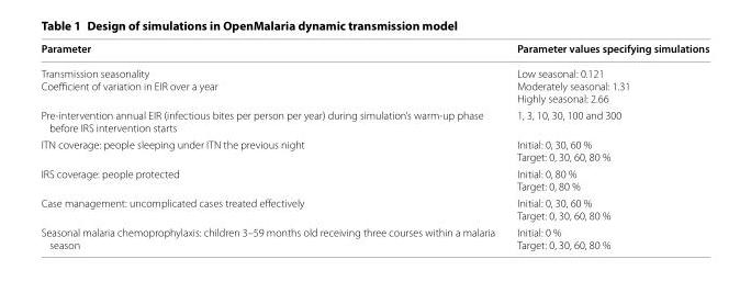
<table><thead><tr><td>Parameter</td><td>Parameter values specifying simulations</td></tr></thead><tbody><tr><td>Transmission seasonality Coefficient of variation in EIR over a year</td><td>Low seasonal: 0.121 Moderately seasonal: 1.31 Highly seasonal: 2.66</td></tr><tr><td>Pre-intervention annual EIR (infectious bites per person per year) during simulation’s warm-up phase before IRS intervention starts</td><td>1, 3, 10, 30, 100 and 300</td></tr><tr><td>ITN coverage: people sleeping under ITN the previous night</td><td>Initial: 0, 30, 60 % Target: 0, 30, 60, 80 %</td></tr><tr><td>IRS coverage: people protected</td><td>Initial: 0, 80 % Target: 0, 80 %</td></tr><tr><td>Case management: uncomplicated cases treated effectively</td><td>Initial: 0, 30, 60 % Target: 0, 30, 60, 80 %</td></tr><tr><td>Seasonal malaria chemoprophylaxis: children 3–59 months old receiving three courses within a malaria season</td><td>Initial: 0 % Target: 0, 30, 60, 80 %</td></tr></tbody></table>